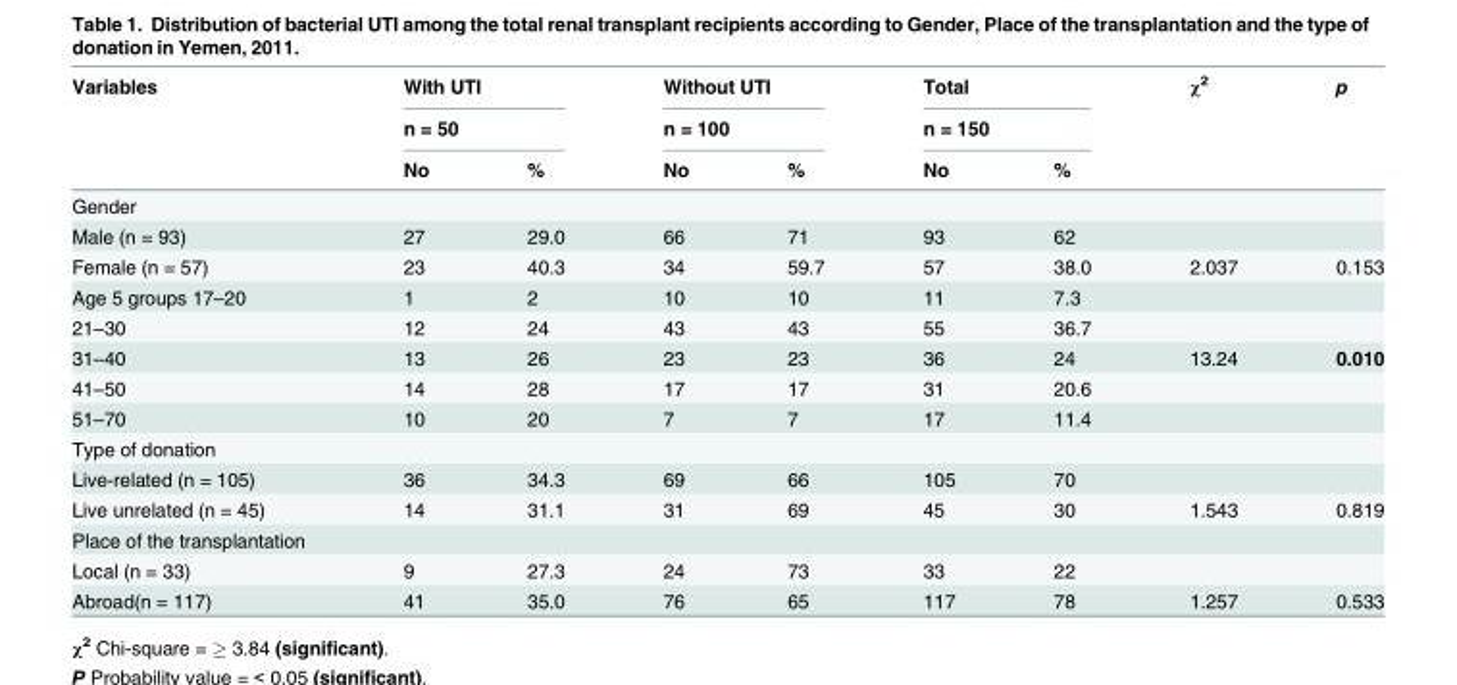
<table><thead><tr><td rowspan="3">Variables</td><td rowspan="2" colspan="2">With UTI n = 50</td><td rowspan="2" colspan="2">Without UTI n = 100</td><td rowspan="2" colspan="2">Total n = 150</td><td rowspan="3">χ<sup>2</sup></td><td rowspan="3">p</td></tr><tr></tr><tr><td>No</td><td>%</td><td>No</td><td>%</td><td>No</td><td>%</td></tr></thead><tbody><tr><td colspan="9">Gender</td></tr><tr><td>Male (n = 93)</td><td>27</td><td>29.0</td><td>66</td><td>71</td><td>93</td><td>62</td><td></td><td></td></tr><tr><td>Female (n = 57)</td><td>23</td><td>40.3</td><td>34</td><td>59.7</td><td>57</td><td>38.0</td><td>2.037</td><td>0.153</td></tr><tr><td>Age 5 groups 17–20</td><td>1</td><td>2</td><td>10</td><td>10</td><td>11</td><td>7.3</td><td></td><td></td></tr><tr><td>21–30</td><td>12</td><td>24</td><td>43</td><td>43</td><td>55</td><td>36.7</td><td></td><td></td></tr><tr><td>31–40</td><td>13</td><td>26</td><td>23</td><td>23</td><td>36</td><td>24</td><td>13.24</td><td>0.010</td></tr><tr><td>41–50</td><td>14</td><td>28</td><td>17</td><td>17</td><td>31</td><td>20.6</td><td></td><td></td></tr><tr><td>51–70</td><td>10</td><td>20</td><td>7</td><td>7</td><td>17</td><td>11.4</td><td></td><td></td></tr><tr><td colspan="9">Type of donation</td></tr><tr><td>Live-related (n = 105)</td><td>36</td><td>34.3</td><td>69</td><td>66</td><td>105</td><td>70</td><td></td><td></td></tr><tr><td>Live unrelated (n = 45)</td><td>14</td><td>31.1</td><td>31</td><td>69</td><td>45</td><td>30</td><td>1.543</td><td>0.819</td></tr><tr><td colspan="9">Place of the transplantation</td></tr><tr><td>Local (n = 33)</td><td>9</td><td>27.3</td><td>24</td><td>73</td><td>33</td><td>22</td><td></td><td></td></tr><tr><td>Abroad(n = 117)</td><td>41</td><td>35.0</td><td>76</td><td>65</td><td>117</td><td>78</td><td>1.257</td><td>0.533</td></tr></tbody></table>